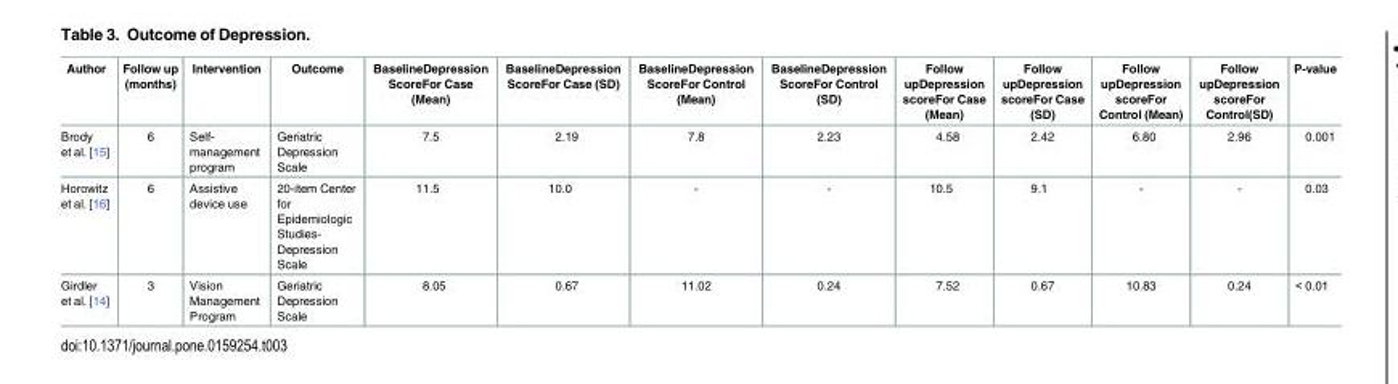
<table><thead><tr><td>Author</td><td>Follow up (months)</td><td>Intervention</td><td>Outcome</td><td>BaselineDepression ScoreFor Case (Mean)</td><td>BaselineDepression ScoreFor Case (SD)</td><td>BaselineDepression ScoreFor Control (Mean)</td><td>BaselineDepression ScoreFor Control (SD)</td><td>Follow upDepression scoreFor Case (Mean)</td><td>Follow upDepression scoreFor Case (SD)</td><td>Follow upDepression scoreFor Control (Mean)</td><td>Follow upDepression scoreFor Control(SD)</td><td>P-value</td></tr></thead><tbody><tr><td>Brody et al. [15]</td><td>6</td><td>Self- management program</td><td>Geriatric Depression Scale</td><td>7.5</td><td>2.19</td><td>7.8</td><td>2.23</td><td>4.58</td><td>2.42</td><td>6.80</td><td>2.96</td><td>0.001</td></tr><tr><td>Horowitz et al. [16]</td><td>6</td><td>Assistive device use</td><td>20-item Center for Epidemiologic Studies- Depression Scale</td><td>11.5</td><td>10.0</td><td>-</td><td>-</td><td>10.5</td><td>9.1</td><td>-</td><td>-</td><td>0.03</td></tr><tr><td>Girdler et al. [14]</td><td>3</td><td>Vision Management Program</td><td>Geriatric Depression Scale</td><td>8.05</td><td>0.67</td><td>11.02</td><td>0.24</td><td>7.52</td><td>0.67</td><td>10.83</td><td>0.24</td><td>&lt; 0.01</td></tr></tbody></table>